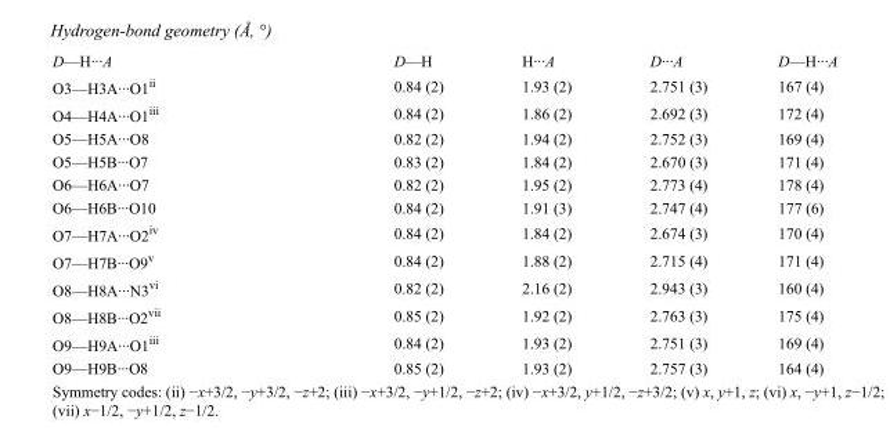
<table><tbody><tr><td>D—H···A</td><td>D—H</td><td>H···A</td><td>D···A</td><td>D—H···A</td></tr><tr><td>O3—H3A···O1<sup>ii</sup></td><td>0.84 (2)</td><td>1.93 (2)</td><td>2.751 (3)</td><td>167 (4)</td></tr><tr><td>O4—H4A···O1<sup>iii</sup></td><td>0.84 (2)</td><td>1.86 (2)</td><td>2.692 (3)</td><td>172 (4)</td></tr><tr><td>O5—H5A···O8</td><td>0.82 (2)</td><td>1.94 (2)</td><td>2.752 (3)</td><td>169 (4)</td></tr><tr><td>O5—H5B···O7</td><td>0.83 (2)</td><td>1.84 (2)</td><td>2.670 (3)</td><td>171 (4)</td></tr><tr><td>O6—H6A···O7</td><td>0.82 (2)</td><td>1.95 (2)</td><td>2.773 (4)</td><td>178 (4)</td></tr><tr><td>O6—H6B···O10</td><td>0.84 (2)</td><td>1.91 (3)</td><td>2.747 (4)</td><td>177 (6)</td></tr><tr><td>O7—H7A···O2<sup>iv</sup></td><td>0.84 (2)</td><td>1.84 (2)</td><td>2.674 (3)</td><td>170 (4)</td></tr><tr><td>O7—H7B···O9<sup>v</sup></td><td>0.84 (2)</td><td>1.88 (2)</td><td>2.715 (4)</td><td>171 (4)</td></tr><tr><td>O8—H8A···N3<sup>vi</sup></td><td>0.82 (2)</td><td>2.16 (2)</td><td>2.943 (3)</td><td>160 (4)</td></tr><tr><td>O8—H8B···O2<sup>vii</sup></td><td>0.85 (2)</td><td>1.92 (2)</td><td>2.763 (3)</td><td>175 (4)</td></tr><tr><td>O9—H9A···O1<sup>iii</sup></td><td>0.84 (2)</td><td>1.93 (2)</td><td>2.751 (3)</td><td>169 (4)</td></tr><tr><td>O9—H9B···O8</td><td>0.85 (2)</td><td>1.93 (2)</td><td>2.757 (3)</td><td>164 (4)</td></tr></tbody></table>